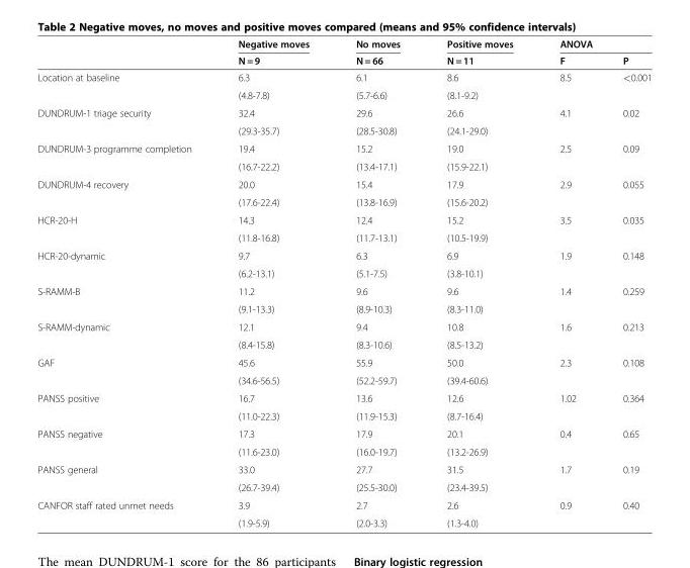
<table><thead><tr><td rowspan="2"></td><td rowspan="2">Negative moves N = 9</td><td rowspan="2">No moves N = 66</td><td rowspan="2">Positive moves N = 11</td><td colspan="2">ANOVA</td></tr><tr><td>F</td><td>P</td></tr></thead><tbody><tr><td rowspan="2">Location at baseline</td><td>6.3</td><td>6.1</td><td>8.6</td><td>8.5</td><td>&lt;0.001</td></tr><tr><td>(4.8-7.8)</td><td>(5.7-6.6)</td><td>(8.1-9.2)</td><td></td><td></td></tr><tr><td rowspan="2">DUNDRUM-1 triage security</td><td>32.4</td><td>29.6</td><td>26.6</td><td>4.1</td><td>0.02</td></tr><tr><td>(29.3-35.7)</td><td>(28.5-30.8)</td><td>(24.1-29.0)</td><td></td><td></td></tr><tr><td rowspan="2">DUNDRUM-3 programme completion</td><td>19.4</td><td>15.2</td><td>19.0</td><td>2.5</td><td>0.09</td></tr><tr><td>(16.7-22.2)</td><td>(13.4-17.1)</td><td>(15.9-22.1)</td><td></td><td></td></tr><tr><td rowspan="2">DUNDRUM-4 recovery</td><td>20.0</td><td>15.4</td><td>17.9</td><td>2.9</td><td>0.055</td></tr><tr><td>(17.6-22.4)</td><td>(13.8-16.9)</td><td>(15.6-20.2)</td><td></td><td></td></tr><tr><td rowspan="2">HCR-20-H</td><td>14.3</td><td>12.4</td><td>15.2</td><td>3.5</td><td>0.035</td></tr><tr><td>(11.8-16.8)</td><td>(11.7-13.1)</td><td>(10.5-19.9)</td><td></td><td></td></tr><tr><td rowspan="2">HCR-20-dynamic</td><td>9.7</td><td>6.3</td><td>6.9</td><td>1.9</td><td>0.148</td></tr><tr><td>(6.2-13.1)</td><td>(5.1-7.5)</td><td>(3.8-10.1)</td><td></td><td></td></tr><tr><td rowspan="2">S-RAMM-B</td><td>11.2</td><td>9.6</td><td>9.6</td><td>1.4</td><td>0.259</td></tr><tr><td>(9.1-13.3)</td><td>(8.9-10.3)</td><td>(8.3-11.0)</td><td></td><td></td></tr><tr><td rowspan="2">S-RAMM-dynamic</td><td>12.1</td><td>9.4</td><td>10.8</td><td>1.6</td><td>0.213</td></tr><tr><td>(8.4-15.8)</td><td>(8.3-10.6)</td><td>(8.5-13.2)</td><td></td><td></td></tr><tr><td rowspan="2">GAF</td><td>45.6</td><td>55.9</td><td>50.0</td><td>2.3</td><td>0.108</td></tr><tr><td>(34.6-56.5)</td><td>(52.2-59.7)</td><td>(39.4-60.6)</td><td></td><td></td></tr><tr><td rowspan="2">PANSS positive</td><td>16.7</td><td>13.6</td><td>12.6</td><td>1.02</td><td>0.364</td></tr><tr><td>(11.0-22.3)</td><td>(11.9-15.3)</td><td>(8.7-16.4)</td><td></td><td></td></tr><tr><td rowspan="2">PANSS negative</td><td>17.3</td><td>17.9</td><td>20.1</td><td>0.4</td><td>0.65</td></tr><tr><td>(11.6-23.0)</td><td>(16.0-19.7)</td><td>(13.2-26.9)</td><td></td><td></td></tr><tr><td rowspan="2">PANSS general</td><td>33.0</td><td>27.7</td><td>31.5</td><td>1.7</td><td>0.19</td></tr><tr><td>(26.7-39.4)</td><td>(25.5-30.0)</td><td>(23.4-39.5)</td><td></td><td></td></tr><tr><td rowspan="2">CANFOR staff rated unmet needs</td><td>3.9</td><td>2.7</td><td>2.6</td><td>0.9</td><td>0.40</td></tr><tr><td>(1.9-5.9)</td><td>(2.0-3.3)</td><td>(1.3-4.0)</td><td></td><td></td></tr></tbody></table>